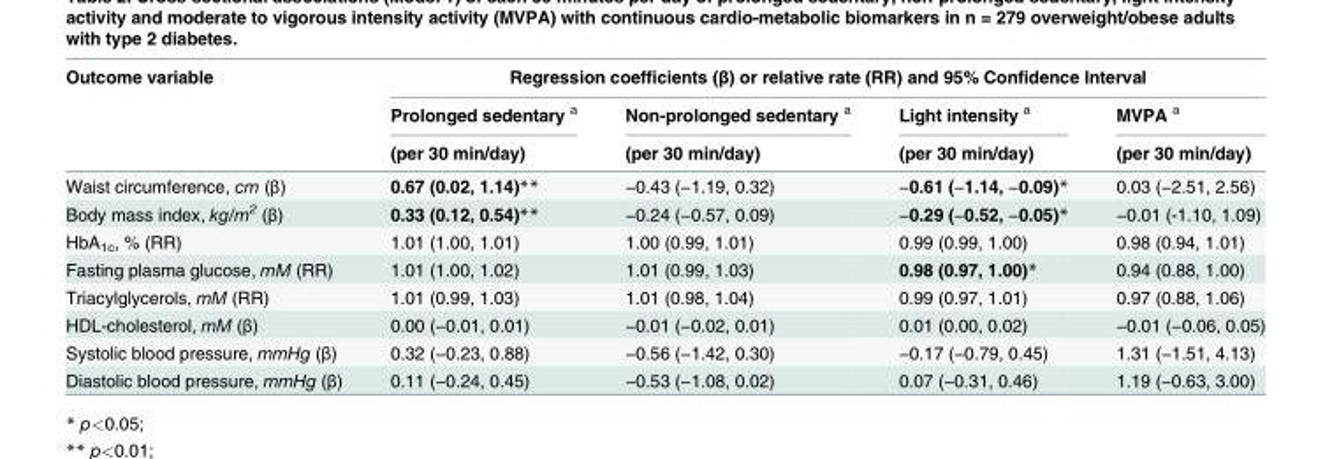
<table><thead><tr><td rowspan="3">Outcome variable</td><td colspan="4">Regression coefficients (β) or relative rate (RR) and 95% Confidence Interval</td></tr><tr><td rowspan="2">Prolonged sedentary <sup>a</sup> (per 30 min/day)</td><td rowspan="2">Non-prolonged sedentary <sup>a</sup> (per 30 min/day)</td><td rowspan="2">Light intensity <sup>a</sup> (per 30 min/day)</td><td rowspan="2">MVPA <sup>a</sup> (per 30 min/day)</td></tr><tr></tr></thead><tbody><tr><td>Waist circumference, cm (β)</td><td>0.67 (0.02, 1.14)**</td><td>−0.43 (−1.19, 0.32)</td><td>−0.61 (−1.14, −0.09)*</td><td>0.03 (−2.51, 2.56)</td></tr><tr><td>Body mass index, kg/m<sup>2</sup> (β)</td><td>0.33 (0.12, 0.54)**</td><td>−0.24 (−0.57, 0.09)</td><td>−0.29 (−0.52, −0.05)*</td><td>−0.01 (-1.10, 1.09)</td></tr><tr><td>HbA<sub>1c</sub>, % (RR)</td><td>1.01 (1.00, 1.01)</td><td>1.00 (0.99, 1.01)</td><td>0.99 (0.99, 1.00)</td><td>0.98 (0.94, 1.01)</td></tr><tr><td>Fasting plasma glucose, mM (RR)</td><td>1.01 (1.00, 1.02)</td><td>1.01 (0.99, 1.03)</td><td>0.98 (0.97, 1.00)*</td><td>0.94 (0.88, 1.00)</td></tr><tr><td>Triacylglycerols, mM (RR)</td><td>1.01 (0.99, 1.03)</td><td>1.01 (0.98, 1.04)</td><td>0.99 (0.97, 1.01)</td><td>0.97 (0.88, 1.06)</td></tr><tr><td>HDL-cholesterol, mM (β)</td><td>0.00 (−0.01, 0.01)</td><td>−0.01 (−0.02, 0.01)</td><td>0.01 (0.00, 0.02)</td><td>−0.01 (−0.06, 0.05)</td></tr><tr><td>Systolic blood pressure, mmHg (β)</td><td>0.32 (−0.23, 0.88)</td><td>−0.56 (−1.42, 0.30)</td><td>−0.17 (−0.79, 0.45)</td><td>1.31 (−1.51, 4.13)</td></tr><tr><td>Diastolic blood pressure, mmHg (β)</td><td>0.11 (−0.24, 0.45)</td><td>−0.53 (−1.08, 0.02)</td><td>0.07 (−0.31, 0.46)</td><td>1.19 (−0.63, 3.00)</td></tr></tbody></table>